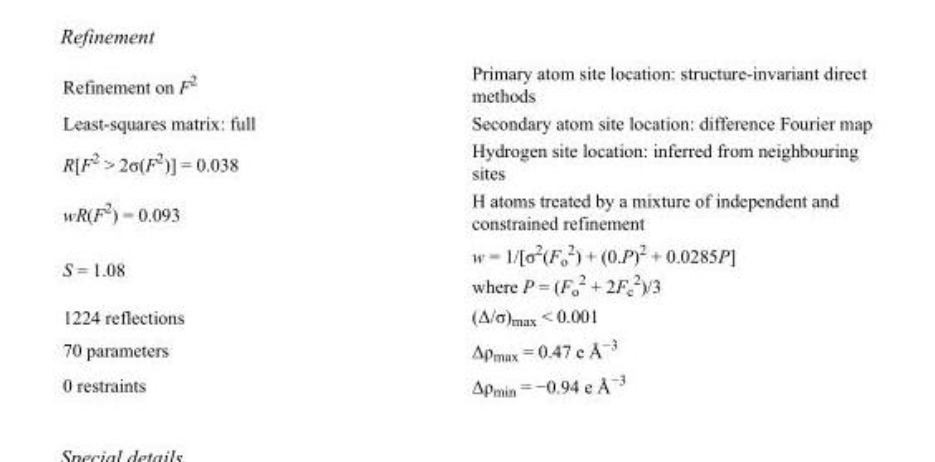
<table><tbody><tr><td>Refinement on F<sup>2</sup></td><td>Primary atom site location: structure-invariant direct methods</td></tr><tr><td>Least-squares matrix: full</td><td>Secondary atom site location: difference Fourier map</td></tr><tr><td>R[F<sup>2</sup> &gt; 2σ(F<sup>2</sup>)] = 0.038</td><td>Hydrogen site location: inferred from neighbouring sites</td></tr><tr><td>wR(F<sup>2</sup>) = 0.093</td><td>H atoms treated by a mixture of independent and constrained refinement</td></tr><tr><td>S = 1.08</td><td>w = 1/[σ<sup>2</sup>(F<sub>o</sub> <sup>2</sup>) + (0.P)<sup>2</sup> + 0.0285P] where P = (F<sub>o</sub> <sup>2</sup> + 2F<sub>c</sub> <sup>2</sup>)/3</td></tr><tr><td>1224 reflections</td><td>(Δ/σ)<sub>max</sub> &lt; 0.001</td></tr><tr><td>70 parameters</td><td>Δρ<sub>max</sub> = 0.47 e Å<sup>−3</sup></td></tr><tr><td>0 restraints</td><td>Δρ<sub>min</sub> = −0.94 e Å<sup>−3</sup></td></tr></tbody></table>